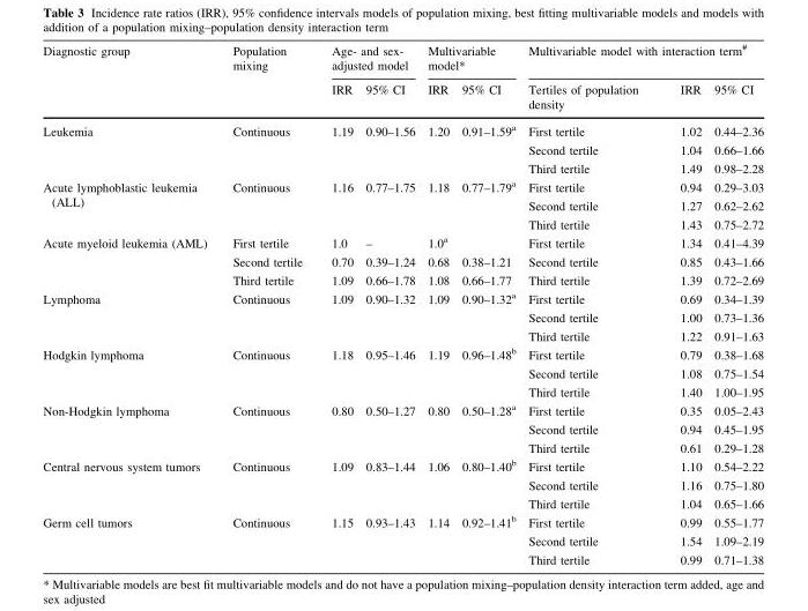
<table><thead><tr><td rowspan="2">Diagnostic group</td><td rowspan="2">Population mixing</td><td colspan="2">Age- and sex- adjusted model</td><td colspan="2">Multivariable model*</td><td colspan="3">Multivariable model with interaction term<sup>#</sup></td></tr><tr><td>IRR</td><td>95% CI</td><td>IRR</td><td>95% CI</td><td>Tertiles of population density</td><td>IRR</td><td>95% CI</td></tr></thead><tbody><tr><td rowspan="3">Leukemia</td><td rowspan="3">Continuous</td><td>1.19</td><td>0.90–1.56</td><td>1.20</td><td>0.91–1.59<sup>a</sup></td><td>First tertile</td><td>1.02</td><td>0.44–2.36</td></tr><tr><td></td><td></td><td></td><td></td><td>Second tertile</td><td>1.04</td><td>0.66–1.66</td></tr><tr><td></td><td></td><td></td><td></td><td>Third tertile</td><td>1.49</td><td>0.98–2.28</td></tr><tr><td rowspan="3">Acute lymphoblastic leukemia (ALL)</td><td rowspan="3">Continuous</td><td>1.16</td><td>0.77–1.75</td><td>1.18</td><td>0.77–1.79<sup>a</sup></td><td>First tertile</td><td>0.94</td><td>0.29–3.03</td></tr><tr><td></td><td></td><td></td><td></td><td>Second tertile</td><td>1.27</td><td>0.62–2.62</td></tr><tr><td></td><td></td><td></td><td></td><td>Third tertile</td><td>1.43</td><td>0.75–2.72</td></tr><tr><td rowspan="3">Acute myeloid leukemia (AML)</td><td>First tertile</td><td>1.0</td><td>–</td><td>1.0<sup>a</sup></td><td></td><td>First tertile</td><td>1.34</td><td>0.41–4.39</td></tr><tr><td>Second tertile</td><td>0.70</td><td>0.39–1.24</td><td>0.68</td><td>0.38–1.21</td><td>Second tertile</td><td>0.85</td><td>0.43–1.66</td></tr><tr><td>Third tertile</td><td>1.09</td><td>0.66–1.78</td><td>1.08</td><td>0.66–1.77</td><td>Third tertile</td><td>1.39</td><td>0.72–2.69</td></tr><tr><td rowspan="3">Lymphoma</td><td rowspan="3">Continuous</td><td>1.09</td><td>0.90–1.32</td><td>1.09</td><td>0.90–1.32<sup>a</sup></td><td>First tertile</td><td>0.69</td><td>0.34–1.39</td></tr><tr><td></td><td></td><td></td><td></td><td>Second tertile</td><td>1.00</td><td>0.73–1.36</td></tr><tr><td></td><td></td><td></td><td></td><td>Third tertile</td><td>1.22</td><td>0.91–1.63</td></tr><tr><td rowspan="3">Hodgkin lymphoma</td><td rowspan="3">Continuous</td><td>1.18</td><td>0.95–1.46</td><td>1.19</td><td>0.96–1.48<sup>b</sup></td><td>First tertile</td><td>0.79</td><td>0.38–1.68</td></tr><tr><td></td><td></td><td></td><td></td><td>Second tertile</td><td>1.08</td><td>0.75–1.54</td></tr><tr><td></td><td></td><td></td><td></td><td>Third tertile</td><td>1.40</td><td>1.00–1.95</td></tr><tr><td rowspan="3">Non-Hodgkin lymphoma</td><td rowspan="3">Continuous</td><td>0.80</td><td>0.50–1.27</td><td>0.80</td><td>0.50–1.28<sup>a</sup></td><td>First tertile</td><td>0.35</td><td>0.05–2.43</td></tr><tr><td></td><td></td><td></td><td></td><td>Second tertile</td><td>0.94</td><td>0.45–1.95</td></tr><tr><td></td><td></td><td></td><td></td><td>Third tertile</td><td>0.61</td><td>0.29–1.28</td></tr><tr><td rowspan="3">Central nervous system tumors</td><td rowspan="3">Continuous</td><td>1.09</td><td>0.83–1.44</td><td>1.06</td><td>0.80–1.40<sup>b</sup></td><td>First tertile</td><td>1.10</td><td>0.54–2.22</td></tr><tr><td></td><td></td><td></td><td></td><td>Second tertile</td><td>1.16</td><td>0.75–1.80</td></tr><tr><td></td><td></td><td></td><td></td><td>Third tertile</td><td>1.04</td><td>0.65–1.66</td></tr><tr><td rowspan="3">Germ cell tumors</td><td rowspan="3">Continuous</td><td>1.15</td><td>0.93–1.43</td><td>1.14</td><td>0.92–1.41<sup>b</sup></td><td>First tertile</td><td>0.99</td><td>0.55–1.77</td></tr><tr><td></td><td></td><td></td><td></td><td>Second tertile</td><td>1.54</td><td>1.09–2.19</td></tr><tr><td></td><td></td><td></td><td></td><td>Third tertile</td><td>0.99</td><td>0.71–1.38</td></tr></tbody></table>